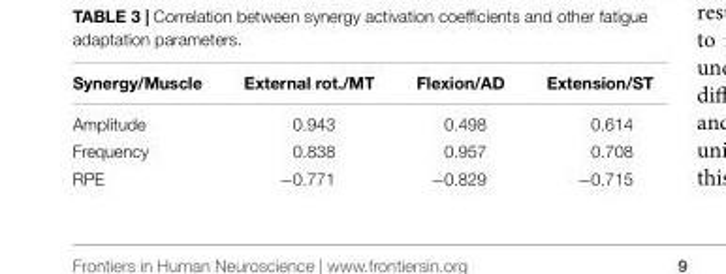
<table><thead><tr><td>Synergy/Muscle</td><td>External rot./MT</td><td>Flexion/AD</td><td>Extension/ST</td></tr></thead><tbody><tr><td>Amplitude</td><td>0.943</td><td>0.498</td><td>0.614</td></tr><tr><td>Frequency</td><td>0.838</td><td>0.957</td><td>0.708</td></tr><tr><td>RPE</td><td>−0.771</td><td>−0.829</td><td>−0.715</td></tr></tbody></table>